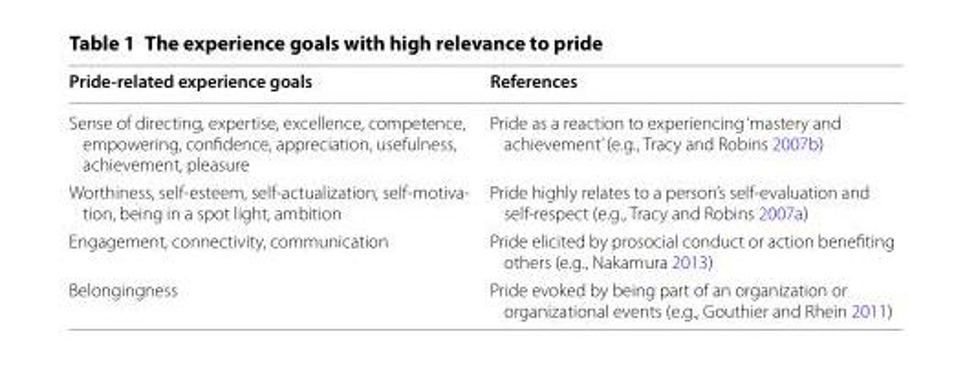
<table><thead><tr><td>Pride‑related experience goals</td><td>References</td></tr></thead><tbody><tr><td>Sense of directing, expertise, excellence, competence, empowering, confidence, appreciation, usefulness, achievement, pleasure</td><td>Pride as a reaction to experiencing ‘mastery and achievement’ (e.g., Tracy and Robins 2007b)</td></tr><tr><td>Worthiness, self-esteem, self-actualization, self-motiva- tion, being in a spot light, ambition</td><td>Pride highly relates to a person’s self-evaluation and self-respect (e.g., Tracy and Robins 2007a)</td></tr><tr><td>Engagement, connectivity, communication</td><td>Pride elicited by prosocial conduct or action benefiting others (e.g., Nakamura 2013)</td></tr><tr><td>Belongingness</td><td>Pride evoked by being part of an organization or organizational events (e.g., Gouthier and Rhein 2011)</td></tr></tbody></table>